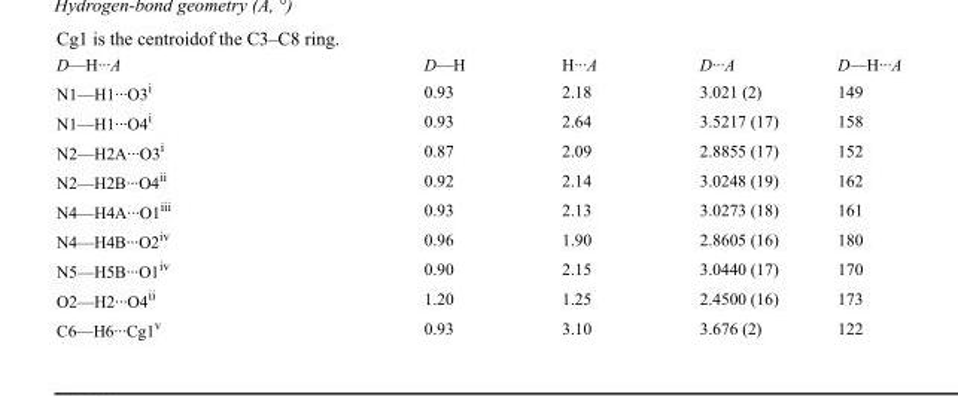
<table><tbody><tr><td>D—H···A</td><td>D—H</td><td>H···A</td><td>D···A</td><td>D—H···A</td></tr><tr><td>N1—H1···O3<sup>i</sup></td><td>0.93</td><td>2.18</td><td>3.021 (2)</td><td>149</td></tr><tr><td>N1—H1···O4<sup>i</sup></td><td>0.93</td><td>2.64</td><td>3.5217 (17)</td><td>158</td></tr><tr><td>N2—H2A···O3<sup>i</sup></td><td>0.87</td><td>2.09</td><td>2.8855 (17)</td><td>152</td></tr><tr><td>N2—H2B···O4<sup>ii</sup></td><td>0.92</td><td>2.14</td><td>3.0248 (19)</td><td>162</td></tr><tr><td>N4—H4A···O1<sup>iii</sup></td><td>0.93</td><td>2.13</td><td>3.0273 (18)</td><td>161</td></tr><tr><td>N4—H4B···O2<sup>iv</sup></td><td>0.96</td><td>1.90</td><td>2.8605 (16)</td><td>180</td></tr><tr><td>N5—H5B···O1<sup>iv</sup></td><td>0.90</td><td>2.15</td><td>3.0440 (17)</td><td>170</td></tr><tr><td>O2—H2···O4<sup>ii</sup></td><td>1.20</td><td>1.25</td><td>2.4500 (16)</td><td>173</td></tr><tr><td>C6—H6···Cg1<sup>v</sup></td><td>0.93</td><td>3.10</td><td>3.676 (2)</td><td>122</td></tr></tbody></table>